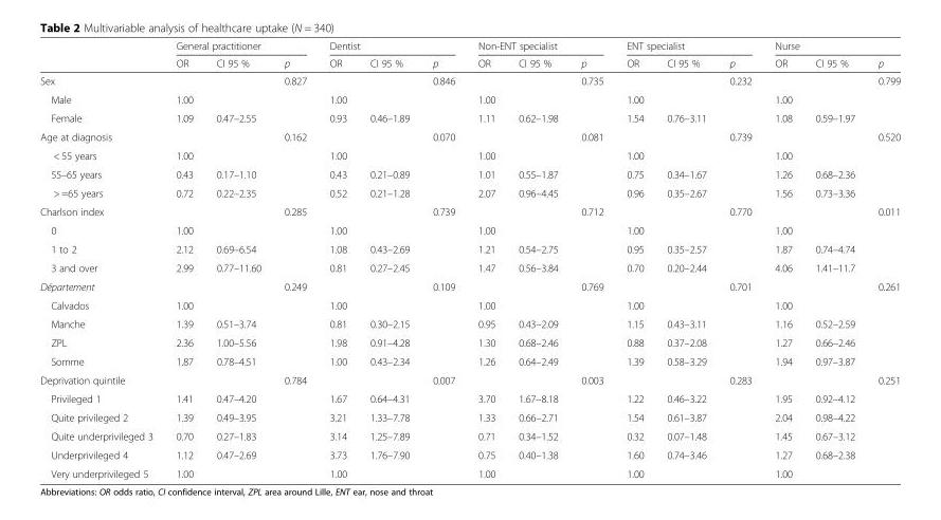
<table><thead><tr><td rowspan="2"></td><td colspan="3">General practitioner</td><td colspan="3">Dentist</td><td colspan="3">Non-ENT specialist</td><td colspan="3">ENT specialist</td><td colspan="3">Nurse</td></tr><tr><td>OR</td><td>CI 95 %</td><td>p</td><td>OR</td><td>CI 95 %</td><td>p</td><td>OR</td><td>CI 95 %</td><td>p</td><td>OR</td><td>CI 95 %</td><td>p</td><td>OR</td><td>CI 95 %</td><td>p</td></tr></thead><tbody><tr><td colspan="3">Sex</td><td>0.827</td><td colspan="2"></td><td>0.846</td><td colspan="2"></td><td>0.735</td><td colspan="2"></td><td>0.232</td><td colspan="2"></td><td>0.799</td></tr><tr><td>Male</td><td>1.00</td><td></td><td></td><td>1.00</td><td></td><td></td><td>1.00</td><td></td><td></td><td>1.00</td><td></td><td></td><td>1.00</td><td></td><td></td></tr><tr><td>Female</td><td>1.09</td><td>0.47–2.55</td><td></td><td>0.93</td><td>0.46–1.89</td><td></td><td>1.11</td><td>0.62–1.98</td><td></td><td>1.54</td><td>0.76–3.11</td><td></td><td>1.08</td><td>0.59–1.97</td><td></td></tr><tr><td colspan="3">Age at diagnosis</td><td>0.162</td><td colspan="2"></td><td>0.070</td><td colspan="2"></td><td>0.081</td><td colspan="2"></td><td>0.739</td><td colspan="2"></td><td>0.520</td></tr><tr><td>&lt; 55 years</td><td>1.00</td><td></td><td></td><td>1.00</td><td></td><td></td><td>1.00</td><td></td><td></td><td>1.00</td><td></td><td></td><td>1.00</td><td></td><td></td></tr><tr><td>55–65 years</td><td>0.43</td><td>0.17–1.10</td><td></td><td>0.43</td><td>0.21–0.89</td><td></td><td>1.01</td><td>0.55–1.87</td><td></td><td>0.75</td><td>0.34–1.67</td><td></td><td>1.26</td><td>0.68–2.36</td><td></td></tr><tr><td>&gt; =65 years</td><td>0.72</td><td>0.22–2.35</td><td></td><td>0.52</td><td>0.21–1.28</td><td></td><td>2.07</td><td>0.96–4.45</td><td></td><td>0.96</td><td>0.35–2.67</td><td></td><td>1.56</td><td>0.73–3.36</td><td></td></tr><tr><td colspan="3">Charlson index</td><td>0.285</td><td colspan="2"></td><td>0.739</td><td colspan="2"></td><td>0.712</td><td colspan="2"></td><td>0.770</td><td colspan="2"></td><td>0.011</td></tr><tr><td>0</td><td>1.00</td><td></td><td></td><td>1.00</td><td></td><td></td><td>1.00</td><td></td><td></td><td>1.00</td><td></td><td></td><td>1.00</td><td></td><td></td></tr><tr><td>1 to 2</td><td>2.12</td><td>0.69–6.54</td><td></td><td>1.08</td><td>0.43–2.69</td><td></td><td>1.21</td><td>0.54–2.75</td><td></td><td>0.95</td><td>0.35–2.57</td><td></td><td>1.87</td><td>0.74–4.74</td><td></td></tr><tr><td>3 and over</td><td>2.99</td><td>0.77–11.60</td><td></td><td>0.81</td><td>0.27–2.45</td><td></td><td>1.47</td><td>0.56–3.84</td><td></td><td>0.70</td><td>0.20–2.44</td><td></td><td>4.06</td><td>1.41–11.7</td><td></td></tr><tr><td colspan="3">Département</td><td>0.249</td><td colspan="2"></td><td>0.109</td><td colspan="2"></td><td>0.769</td><td colspan="2"></td><td>0.701</td><td colspan="2"></td><td>0.261</td></tr><tr><td>Calvados</td><td>1.00</td><td></td><td></td><td>1.00</td><td></td><td></td><td>1.00</td><td></td><td></td><td>1.00</td><td></td><td></td><td>1.00</td><td></td><td></td></tr><tr><td>Manche</td><td>1.39</td><td>0.51–3.74</td><td></td><td>0.81</td><td>0.30–2.15</td><td></td><td>0.95</td><td>0.43–2.09</td><td></td><td>1.15</td><td>0.43–3.11</td><td></td><td>1.16</td><td>0.52–2.59</td><td></td></tr><tr><td>ZPL</td><td>2.36</td><td>1.00–5.56</td><td></td><td>1.98</td><td>0.91–4.28</td><td></td><td>1.30</td><td>0.68–2.46</td><td></td><td>0.88</td><td>0.37–2.08</td><td></td><td>1.27</td><td>0.66–2.46</td><td></td></tr><tr><td>Somme</td><td>1.87</td><td>0.78–4.51</td><td></td><td>1.00</td><td>0.43–2.34</td><td></td><td>1.26</td><td>0.64–2.49</td><td></td><td>1.39</td><td>0.58–3.29</td><td></td><td>1.94</td><td>0.97–3.87</td><td></td></tr><tr><td colspan="3">Deprivation quintile</td><td>0.784</td><td colspan="2"></td><td>0.007</td><td colspan="2"></td><td>0.003</td><td colspan="2"></td><td>0.283</td><td colspan="2"></td><td>0.251</td></tr><tr><td>Privileged 1</td><td>1.41</td><td>0.47–4.20</td><td></td><td>1.67</td><td>0.64–4.31</td><td></td><td>3.70</td><td>1.67–8.18</td><td></td><td>1.22</td><td>0.46–3.22</td><td></td><td>1.95</td><td>0.92–4.12</td><td></td></tr><tr><td>Quite privileged 2</td><td>1.39</td><td>0.49–3.95</td><td></td><td>3.21</td><td>1.33–7.78</td><td></td><td>1.33</td><td>0.66–2.71</td><td></td><td>1.54</td><td>0.61–3.87</td><td></td><td>2.04</td><td>0.98–4.22</td><td></td></tr><tr><td>Quite underprivileged 3</td><td>0.70</td><td>0.27–1.83</td><td></td><td>3.14</td><td>1.25–7.89</td><td></td><td>0.71</td><td>0.34–1.52</td><td></td><td>0.32</td><td>0.07–1.48</td><td></td><td>1.45</td><td>0.67–3.12</td><td></td></tr><tr><td>Underprivileged 4</td><td>1.12</td><td>0.47–2.69</td><td></td><td>3.73</td><td>1.76–7.90</td><td></td><td>0.75</td><td>0.40–1.38</td><td></td><td>1.60</td><td>0.74–3.46</td><td></td><td>1.27</td><td>0.68–2.38</td><td></td></tr><tr><td>Very underprivileged 5</td><td>1.00</td><td></td><td></td><td>1.00</td><td></td><td></td><td>1.00</td><td></td><td></td><td>1.00</td><td></td><td></td><td>1.00</td><td></td><td></td></tr></tbody></table>